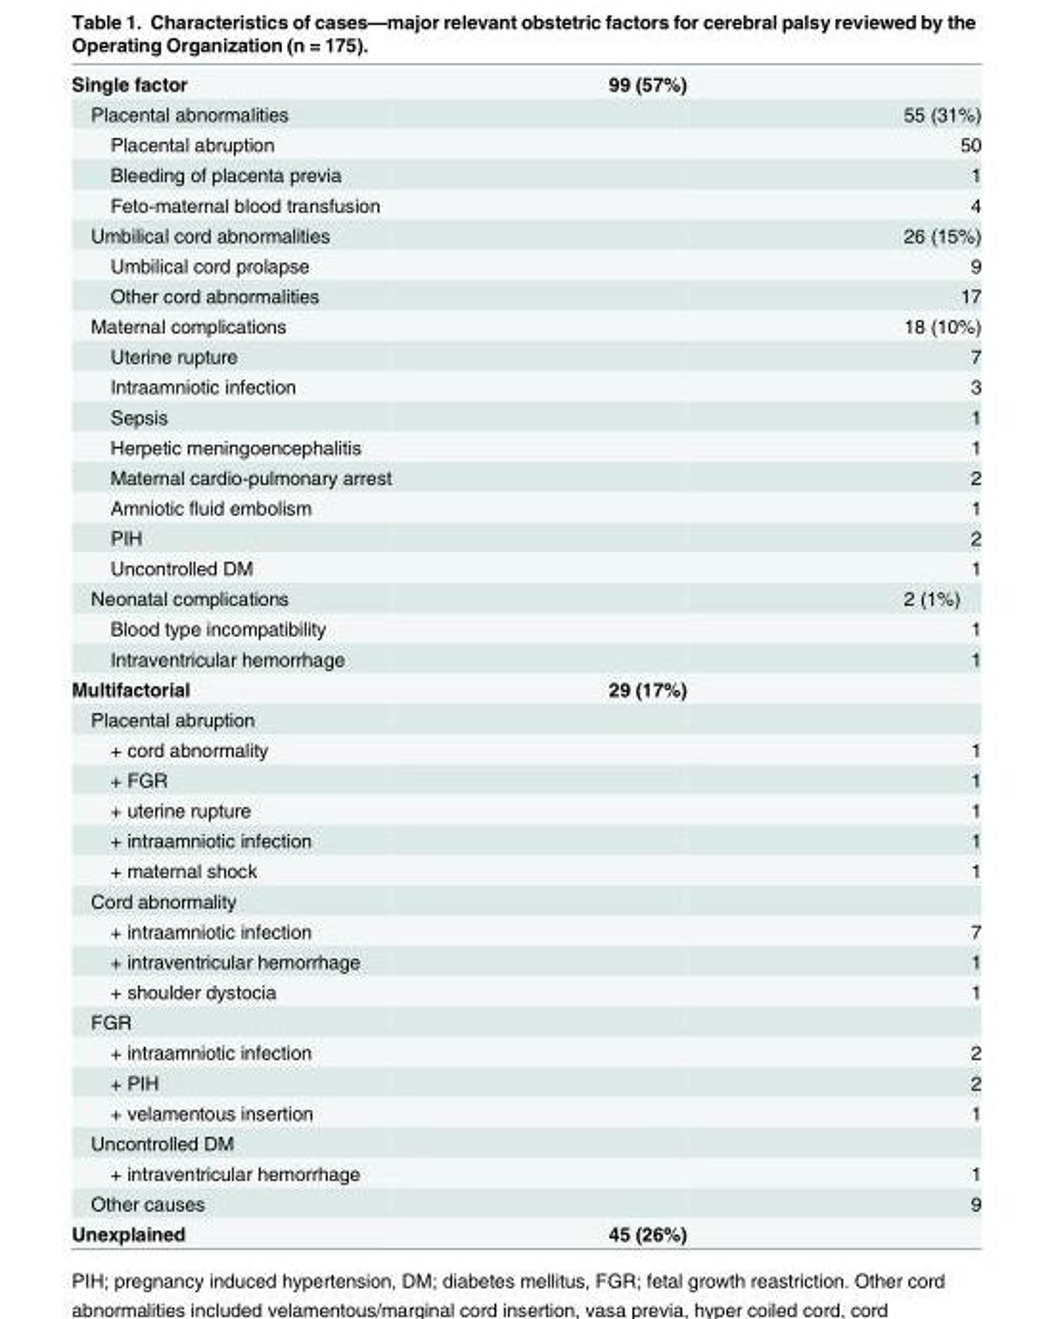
<table><tbody><tr><td>Single factor</td><td>99 (57%)</td><td></td></tr><tr><td>Placental abnormalities</td><td></td><td>55 (31%)</td></tr><tr><td>Placental abruption</td><td></td><td>50</td></tr><tr><td>Bleeding of placenta previa</td><td></td><td>1</td></tr><tr><td>Feto-maternal blood transfusion</td><td></td><td>4</td></tr><tr><td>Umbilical cord abnormalities</td><td></td><td>26 (15%)</td></tr><tr><td>Umbilical cord prolapse</td><td></td><td>9</td></tr><tr><td>Other cord abnormalities</td><td></td><td>17</td></tr><tr><td>Maternal complications</td><td></td><td>18 (10%)</td></tr><tr><td>Uterine rupture</td><td></td><td>7</td></tr><tr><td>Intraamniotic infection</td><td></td><td>3</td></tr><tr><td>Sepsis</td><td></td><td>1</td></tr><tr><td>Herpetic meningoencephalitis</td><td></td><td>1</td></tr><tr><td>Maternal cardio-pulmonary arrest</td><td></td><td>2</td></tr><tr><td>Amniotic fluid embolism</td><td></td><td>1</td></tr><tr><td>PIH</td><td></td><td>2</td></tr><tr><td>Uncontrolled DM</td><td></td><td>1</td></tr><tr><td>Neonatal complications</td><td></td><td>2 (1%)</td></tr><tr><td>Blood type incompatibility</td><td></td><td>1</td></tr><tr><td>Intraventricular hemorrhage</td><td></td><td>1</td></tr><tr><td>Multifactorial</td><td>29 (17%)</td><td></td></tr><tr><td colspan="3">Placental abruption</td></tr><tr><td>+ cord abnormality</td><td></td><td>1</td></tr><tr><td>+ FGR</td><td></td><td>1</td></tr><tr><td>+ uterine rupture</td><td></td><td>1</td></tr><tr><td>+ intraamniotic infection</td><td></td><td>1</td></tr><tr><td>+ maternal shock</td><td></td><td>1</td></tr><tr><td colspan="3">Cord abnormality</td></tr><tr><td>+ intraamniotic infection</td><td></td><td>7</td></tr><tr><td>+ intraventricular hemorrhage</td><td></td><td>1</td></tr><tr><td>+ shoulder dystocia</td><td></td><td>1</td></tr><tr><td colspan="3">FGR</td></tr><tr><td>+ intraamniotic infection</td><td></td><td>2</td></tr><tr><td>+ PIH</td><td></td><td>2</td></tr><tr><td>+ velamentous insertion</td><td></td><td>1</td></tr><tr><td colspan="3">Uncontrolled DM</td></tr><tr><td>+ intraventricular hemorrhage</td><td></td><td>1</td></tr><tr><td>Other causes</td><td></td><td>9</td></tr><tr><td>Unexplained</td><td>45 (26%)</td><td></td></tr></tbody></table>